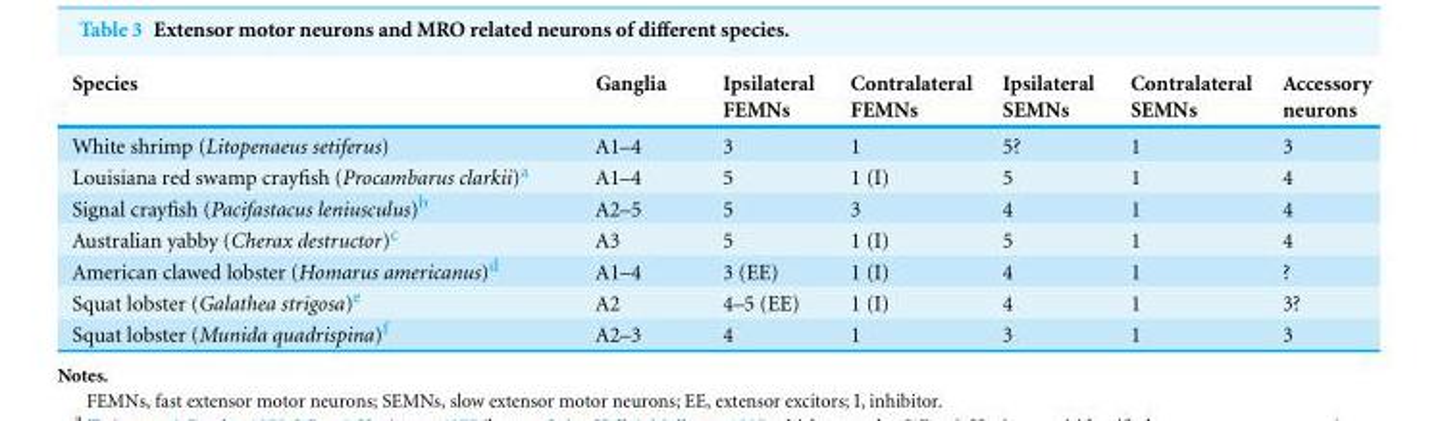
<table><thead><tr><td>Species</td><td>Ganglia</td><td>Ipsilateral FEMNs</td><td>Contralateral FEMNs</td><td>Ipsilateral SEMNs</td><td>Contralateral SEMNs</td><td>Accessory neurons</td></tr></thead><tbody><tr><td>White shrimp (Litopenaeus setiferus)</td><td>A1–4</td><td>3</td><td>1</td><td>5?</td><td>1</td><td>3</td></tr><tr><td>Louisiana red swamp crayfish (Procambarus clarkii)<sup>a</sup></td><td>A1–4</td><td>5</td><td>1 (I)</td><td>5</td><td>1</td><td>4</td></tr><tr><td>Signal crayfish (Pacifastacus leniusculus)<sup>b</sup></td><td>A2–5</td><td>5</td><td>3</td><td>4</td><td>1</td><td>4</td></tr><tr><td>Australian yabby (Cherax destructor)<sup>c</sup></td><td>A3</td><td>5</td><td>1 (I)</td><td>5</td><td>1</td><td>4</td></tr><tr><td>American clawed lobster (Homarus americanus)<sup>d</sup></td><td>A1–4</td><td>3 (EE)</td><td>1 (I)</td><td>4</td><td>1</td><td>?</td></tr><tr><td>Squat lobster (Galathea strigosa)<sup>e</sup></td><td>A2</td><td>4–5 (EE)</td><td>1 (I)</td><td>4</td><td>1</td><td>3?</td></tr><tr><td>Squat lobster (Munida quadrispina)<sup>f</sup></td><td>A2–3</td><td>4</td><td>1</td><td>3</td><td>1</td><td>3</td></tr></tbody></table>